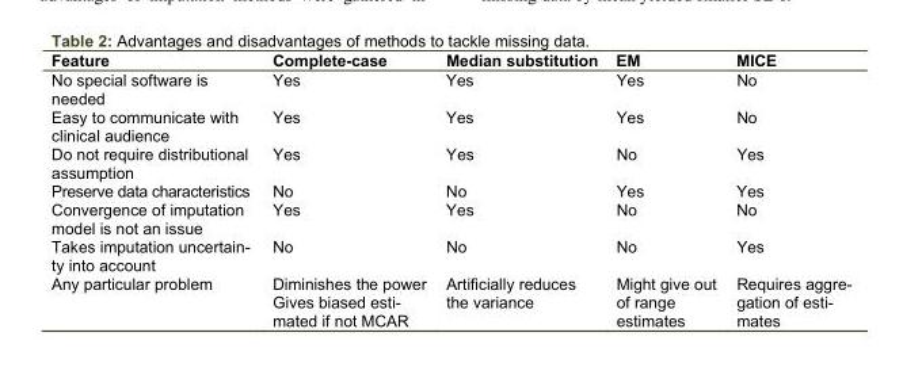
<table><thead><tr><td>Feature</td><td>Complete-case</td><td>Median substitution</td><td>EM</td><td>MICE</td></tr></thead><tbody><tr><td>No special software is needed</td><td>Yes</td><td>Yes</td><td>Yes</td><td>No</td></tr><tr><td>Easy to communicate with clinical audience</td><td>Yes</td><td>Yes</td><td>Yes</td><td>No</td></tr><tr><td>Do not require distributional assumption</td><td>Yes</td><td>Yes</td><td>No</td><td>Yes</td></tr><tr><td>Preserve data characteristics</td><td>No</td><td>No</td><td>Yes</td><td>Yes</td></tr><tr><td>Convergence of imputation model is not an issue</td><td>Yes</td><td>Yes</td><td>No</td><td>No</td></tr><tr><td>Takes imputation uncertain- ty into account</td><td>No</td><td>No</td><td>No</td><td>Yes</td></tr><tr><td>Any particular problem</td><td>Diminishes the power Gives biased esti- mated if not MCAR</td><td>Artificially reduces the variance</td><td>Might give out of range estimates</td><td>Requires aggre- gation of esti- mates</td></tr></tbody></table>